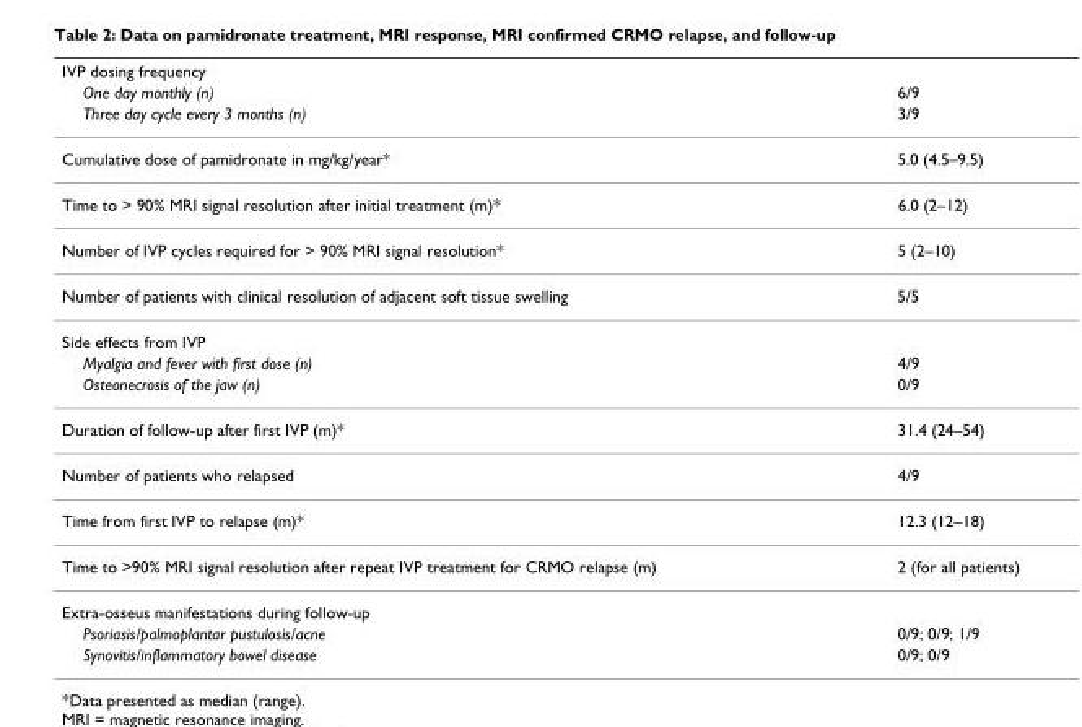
<table><thead><tr><td rowspan="3">IVP dosing frequency One day monthly (n) Three day cycle every 3 months (n)</td><td rowspan="3">6/9 3/9</td></tr><tr></tr><tr></tr></thead><tbody><tr><td>Cumulative dose of pamidronate in mg/kg/year*</td><td>5.0 (4.5–9.5)</td></tr><tr><td>Time to &gt; 90% MRI signal resolution after initial treatment (m)*</td><td>6.0 (2–12)</td></tr><tr><td>Number of IVP cycles required for &gt; 90% MRI signal resolution*</td><td>5 (2–10)</td></tr><tr><td>Number of patients with clinical resolution of adjacent soft tissue swelling</td><td>5/5</td></tr><tr><td colspan="2">Side effects from IVP</td></tr><tr><td>Myalgia and fever with first dose (n)</td><td>4/9</td></tr><tr><td>Osteonecrosis of the jaw (n)</td><td>0/9</td></tr><tr><td>Duration of follow-up after first IVP (m)*</td><td>31.4 (24–54)</td></tr><tr><td>Number of patients who relapsed</td><td>4/9</td></tr><tr><td>Time from first IVP to relapse (m)*</td><td>12.3 (12–18)</td></tr><tr><td>Time to &gt;90% MRI signal resolution after repeat IVP treatment for CRMO relapse (m)</td><td>2 (for all patients)</td></tr><tr><td colspan="2">Extra-osseus manifestations during follow-up</td></tr><tr><td>Psoriasis/palmoplantar pustulosis/acne</td><td>0/9; 0/9; 1/9</td></tr><tr><td>Synovitis/inflammatory bowel disease</td><td>0/9; 0/9</td></tr></tbody></table>